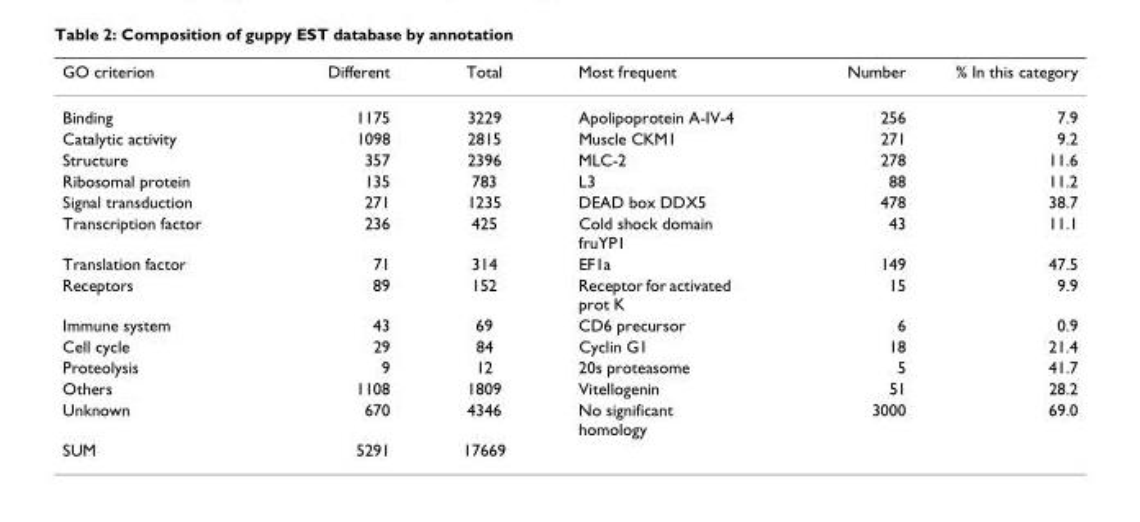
<table><thead><tr><td>GO criterion</td><td>Different</td><td>Total</td><td>Most frequent</td><td>Number</td><td>% In this category</td></tr></thead><tbody><tr><td>Binding</td><td>1175</td><td>3229</td><td>Apolipoprotein A-IV-4</td><td>256</td><td>7.9</td></tr><tr><td>Catalytic activity</td><td>1098</td><td>2815</td><td>Muscle CKM1</td><td>271</td><td>9.2</td></tr><tr><td>Structure</td><td>357</td><td>2396</td><td>MLC-2</td><td>278</td><td>11.6</td></tr><tr><td>Ribosomal protein</td><td>135</td><td>783</td><td>L3</td><td>88</td><td>11.2</td></tr><tr><td>Signal transduction</td><td>271</td><td>1235</td><td>DEAD box DDX5</td><td>478</td><td>38.7</td></tr><tr><td>Transcription factor</td><td>236</td><td>425</td><td>Cold shock domain fruYP1</td><td>43</td><td>11.1</td></tr><tr><td>Translation factor</td><td>71</td><td>314</td><td>EF1a</td><td>149</td><td>47.5</td></tr><tr><td>Receptors</td><td>89</td><td>152</td><td>Receptor for activated prot K</td><td>15</td><td>9.9</td></tr><tr><td>Immune system</td><td>43</td><td>69</td><td>CD6 precursor</td><td>6</td><td>0.9</td></tr><tr><td>Cell cycle</td><td>29</td><td>84</td><td>Cyclin G1</td><td>18</td><td>21.4</td></tr><tr><td>Proteolysis</td><td>9</td><td>12</td><td>20s proteasome</td><td>5</td><td>41.7</td></tr><tr><td>Others</td><td>1108</td><td>1809</td><td>Vitellogenin</td><td>51</td><td>28.2</td></tr><tr><td>Unknown</td><td>670</td><td>4346</td><td>No significant homology</td><td>3000</td><td>69.0</td></tr><tr><td>SUM</td><td>5291</td><td>17669</td><td></td><td></td><td></td></tr></tbody></table>